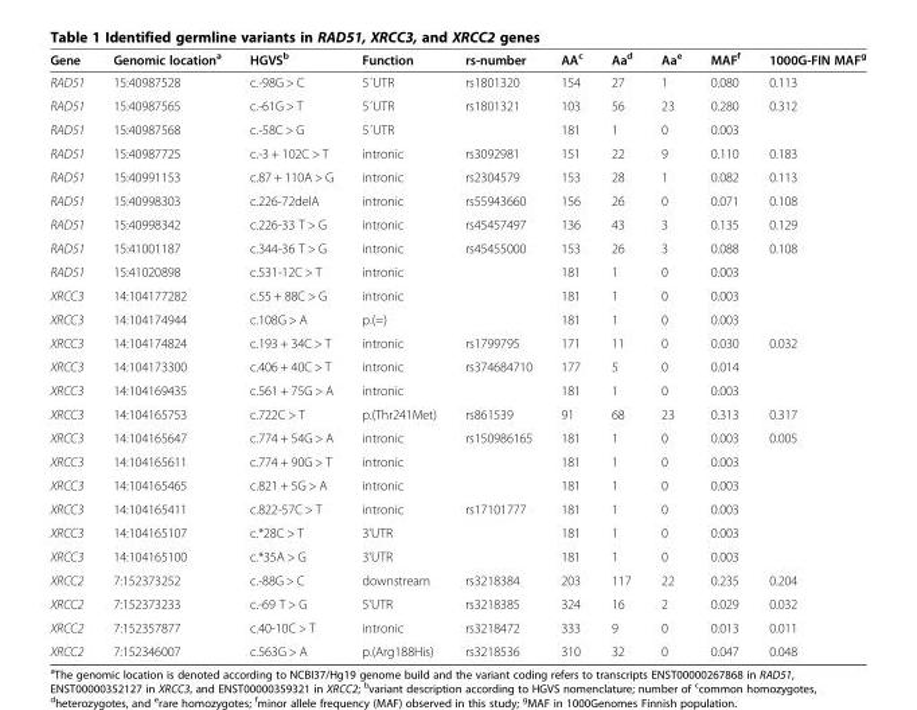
<table><thead><tr><td>Gene</td><td>Genomic location<sup>a</sup></td><td>HGVS<sup>b</sup></td><td>Function</td><td>rs-number</td><td>AA<sup>c</sup></td><td>Aa<sup>d</sup></td><td>Aa<sup>e</sup></td><td>MAF<sup>f</sup></td><td>1000G-FIN MAF<sup>g</sup></td></tr></thead><tbody><tr><td>RAD51</td><td>15:40987528</td><td>c.-98G &gt; C</td><td>5´UTR</td><td>rs1801320</td><td>154</td><td>27</td><td>1</td><td>0.080</td><td>0.113</td></tr><tr><td>RAD51</td><td>15:40987565</td><td>c.-61G &gt; T</td><td>5´UTR</td><td>rs1801321</td><td>103</td><td>56</td><td>23</td><td>0.280</td><td>0.312</td></tr><tr><td>RAD51</td><td>15:40987568</td><td>c.-58C &gt; G</td><td>5´UTR</td><td></td><td>181</td><td>1</td><td>0</td><td>0.003</td><td></td></tr><tr><td>RAD51</td><td>15:40987725</td><td>c.-3 + 102C &gt; T</td><td>intronic</td><td>rs3092981</td><td>151</td><td>22</td><td>9</td><td>0.110</td><td>0.183</td></tr><tr><td>RAD51</td><td>15:40991153</td><td>c.87 + 110A &gt; G</td><td>intronic</td><td>rs2304579</td><td>153</td><td>28</td><td>1</td><td>0.082</td><td>0.113</td></tr><tr><td>RAD51</td><td>15:40998303</td><td>c.226-72delA</td><td>intronic</td><td>rs55943660</td><td>156</td><td>26</td><td>0</td><td>0.071</td><td>0.108</td></tr><tr><td>RAD51</td><td>15:40998342</td><td>c.226-33 T &gt; G</td><td>intronic</td><td>rs45457497</td><td>136</td><td>43</td><td>3</td><td>0.135</td><td>0.129</td></tr><tr><td>RAD51</td><td>15:41001187</td><td>c.344-36 T &gt; G</td><td>intronic</td><td>rs45455000</td><td>153</td><td>26</td><td>3</td><td>0.088</td><td>0.108</td></tr><tr><td>RAD51</td><td>15:41020898</td><td>c.531-12C &gt; T</td><td>intronic</td><td></td><td>181</td><td>1</td><td>0</td><td>0.003</td><td></td></tr><tr><td>XRCC3</td><td>14:104177282</td><td>c.55 + 88C &gt; G</td><td>intronic</td><td></td><td>181</td><td>1</td><td>0</td><td>0.003</td><td></td></tr><tr><td>XRCC3</td><td>14:104174944</td><td>c.108G &gt; A</td><td>p.(=)</td><td></td><td>181</td><td>1</td><td>0</td><td>0.003</td><td></td></tr><tr><td>XRCC3</td><td>14:104174824</td><td>c.193 + 34C &gt; T</td><td>intronic</td><td>rs1799795</td><td>171</td><td>11</td><td>0</td><td>0.030</td><td>0.032</td></tr><tr><td>XRCC3</td><td>14:104173300</td><td>c.406 + 40C &gt; T</td><td>intronic</td><td>rs374684710</td><td>177</td><td>5</td><td>0</td><td>0.014</td><td></td></tr><tr><td>XRCC3</td><td>14:104169435</td><td>c.561 + 75G &gt; A</td><td>intronic</td><td></td><td>181</td><td>1</td><td>0</td><td>0.003</td><td></td></tr><tr><td>XRCC3</td><td>14:104165753</td><td>c.722C &gt; T</td><td>p.(Thr241Met)</td><td>rs861539</td><td>91</td><td>68</td><td>23</td><td>0.313</td><td>0.317</td></tr><tr><td>XRCC3</td><td>14:104165647</td><td>c.774 + 54G &gt; A</td><td>intronic</td><td>rs150986165</td><td>181</td><td>1</td><td>0</td><td>0.003</td><td>0.005</td></tr><tr><td>XRCC3</td><td>14:104165611</td><td>c.774 + 90G &gt; T</td><td>intronic</td><td></td><td>181</td><td>1</td><td>0</td><td>0.003</td><td></td></tr><tr><td>XRCC3</td><td>14:104165465</td><td>c.821 + 5G &gt; A</td><td>intronic</td><td></td><td>181</td><td>1</td><td>0</td><td>0.003</td><td></td></tr><tr><td>XRCC3</td><td>14:104165411</td><td>c.822-57C &gt; T</td><td>intronic</td><td>rs17101777</td><td>181</td><td>1</td><td>0</td><td>0.003</td><td></td></tr><tr><td>XRCC3</td><td>14:104165107</td><td>c.*28C &gt; T</td><td>3&#x27;UTR</td><td></td><td>181</td><td>1</td><td>0</td><td>0.003</td><td></td></tr><tr><td>XRCC3</td><td>14:104165100</td><td>c.*35A &gt; G</td><td>3&#x27;UTR</td><td></td><td>181</td><td>1</td><td>0</td><td>0.003</td><td></td></tr><tr><td>XRCC2</td><td>7:152373252</td><td>c.-88G &gt; C</td><td>downstream</td><td>rs3218384</td><td>203</td><td>117</td><td>22</td><td>0.235</td><td>0.204</td></tr><tr><td>XRCC2</td><td>7:152373233</td><td>c.-69 T &gt; G</td><td>5&#x27;UTR</td><td>rs3218385</td><td>324</td><td>16</td><td>2</td><td>0.029</td><td>0.032</td></tr><tr><td>XRCC2</td><td>7:152357877</td><td>c.40-10C &gt; T</td><td>intronic</td><td>rs3218472</td><td>333</td><td>9</td><td>0</td><td>0.013</td><td>0.011</td></tr><tr><td>XRCC2</td><td>7:152346007</td><td>c.563G &gt; A</td><td>p.(Arg188His)</td><td>rs3218536</td><td>310</td><td>32</td><td>0</td><td>0.047</td><td>0.048</td></tr></tbody></table>